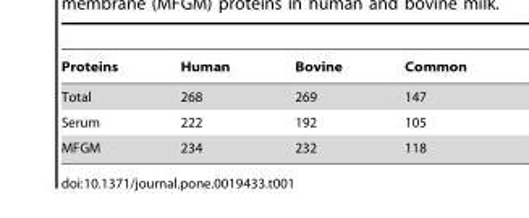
<table><thead><tr><td>Proteins</td><td>Human</td><td>Bovine</td><td>Common</td></tr></thead><tbody><tr><td>Total</td><td>268</td><td>269</td><td>147</td></tr><tr><td>Serum</td><td>222</td><td>192</td><td>105</td></tr><tr><td>MFGM</td><td>234</td><td>232</td><td>118</td></tr></tbody></table>